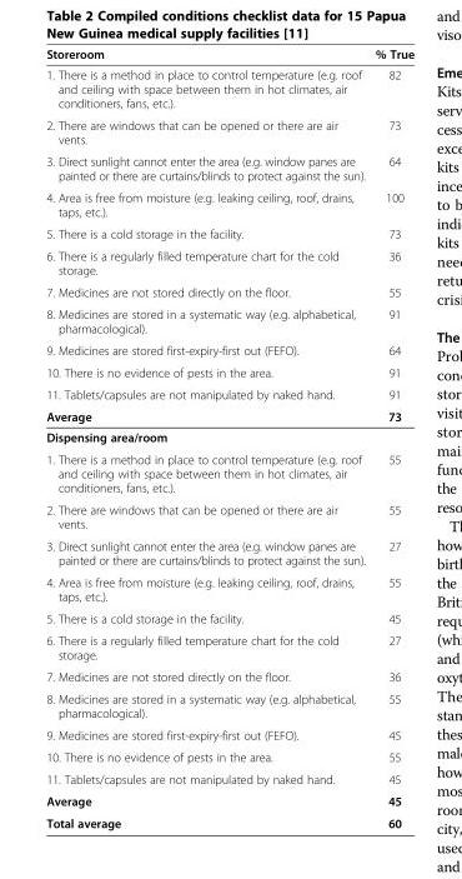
<table><thead><tr><td>Storeroom</td><td>% True</td></tr></thead><tbody><tr><td>1. There is a method in place to control temperature (e.g. roof and ceiling with space between them in hot climates, air conditioners, fans, etc.).</td><td>82</td></tr><tr><td>2. There are windows that can be opened or there are air vents.</td><td>73</td></tr><tr><td>3. Direct sunlight cannot enter the area (e.g. window panes are painted or there are curtains/blinds to protect against the sun).</td><td>64</td></tr><tr><td>4. Area is free from moisture (e.g. leaking ceiling, roof, drains, taps, etc.).</td><td>100</td></tr><tr><td>5. There is a cold storage in the facility.</td><td>73</td></tr><tr><td>6. There is a regularly filled temperature chart for the cold storage.</td><td>36</td></tr><tr><td>7. Medicines are not stored directly on the floor.</td><td>55</td></tr><tr><td>8. Medicines are stored in a systematic way (e.g. alphabetical, pharmacological).</td><td>91</td></tr><tr><td>9. Medicines are stored first-expiry-first out (FEFO).</td><td>64</td></tr><tr><td>10. There is no evidence of pests in the area.</td><td>91</td></tr><tr><td>11. Tablets/capsules are not manipulated by naked hand.</td><td>91</td></tr><tr><td>Average</td><td>73</td></tr><tr><td colspan="2">Dispensing area/room</td></tr><tr><td>1. There is a method in place to control temperature (e.g. roof and ceiling with space between them in hot climates, air conditioners, fans, etc.).</td><td>55</td></tr><tr><td>2. There are windows that can be opened or there are air vents.</td><td>55</td></tr><tr><td>3. Direct sunlight cannot enter the area (e.g. window panes are painted or there are curtains/blinds to protect against the sun).</td><td>27</td></tr><tr><td>4. Area is free from moisture (e.g. leaking ceiling, roof, drains, taps, etc.).</td><td>55</td></tr><tr><td>5. There is a cold storage in the facility.</td><td>45</td></tr><tr><td>6. There is a regularly filled temperature chart for the cold storage.</td><td>27</td></tr><tr><td>7. Medicines are not stored directly on the floor.</td><td>36</td></tr><tr><td>8. Medicines are stored in a systematic way (e.g. alphabetical, pharmacological).</td><td>55</td></tr><tr><td>9. Medicines are stored first-expiry-first out (FEFO).</td><td>45</td></tr><tr><td>10. There is no evidence of pests in the area.</td><td>55</td></tr><tr><td>11. Tablets/capsules are not manipulated by naked hand.</td><td>45</td></tr><tr><td>Average</td><td>45</td></tr><tr><td>Total average</td><td>60</td></tr></tbody></table>